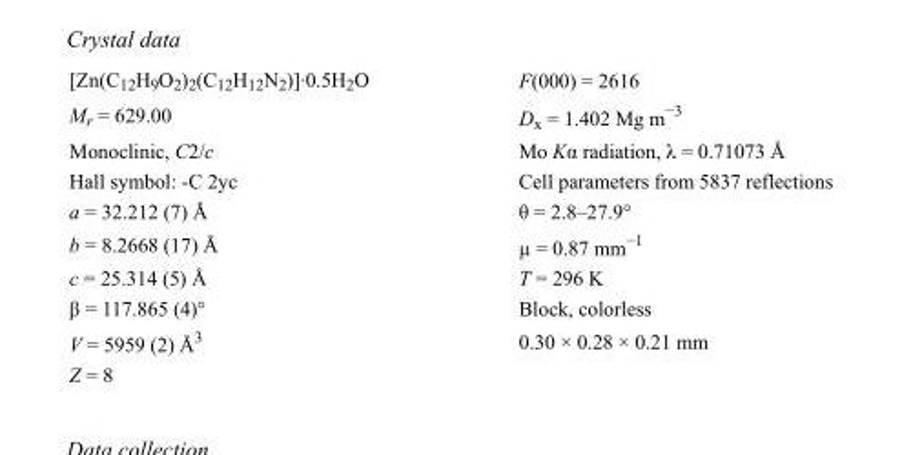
<table><tbody><tr><td>[Zn(C<sub>12</sub>H<sub>9</sub>O<sub>2</sub>)<sub>2</sub>(C<sub>12</sub>H<sub>12</sub>N<sub>2</sub>)]·0.5H<sub>2</sub>O</td><td>F(000) = 2616</td></tr><tr><td>M<sub>r</sub> = 629.00</td><td>D<sub>x</sub> = 1.402 Mg m<sup>−3</sup></td></tr><tr><td>Monoclinic, C2/c</td><td>Mo Kα radiation, λ = 0.71073 Å</td></tr><tr><td>Hall symbol: -C 2yc</td><td>Cell parameters from 5837 reflections</td></tr><tr><td>a = 32.212 (7) Å</td><td>θ = 2.8–27.9°</td></tr><tr><td>b = 8.2668 (17) Å</td><td>µ = 0.87 mm<sup>−1</sup></td></tr><tr><td>c = 25.314 (5) Å</td><td>T = 296 K</td></tr><tr><td>β = 117.865 (4)°</td><td>Block, colorless</td></tr><tr><td>V = 5959 (2) Å<sup>3</sup></td><td>0.30 × 0.28 × 0.21 mm</td></tr><tr><td>Z = 8</td><td></td></tr></tbody></table>